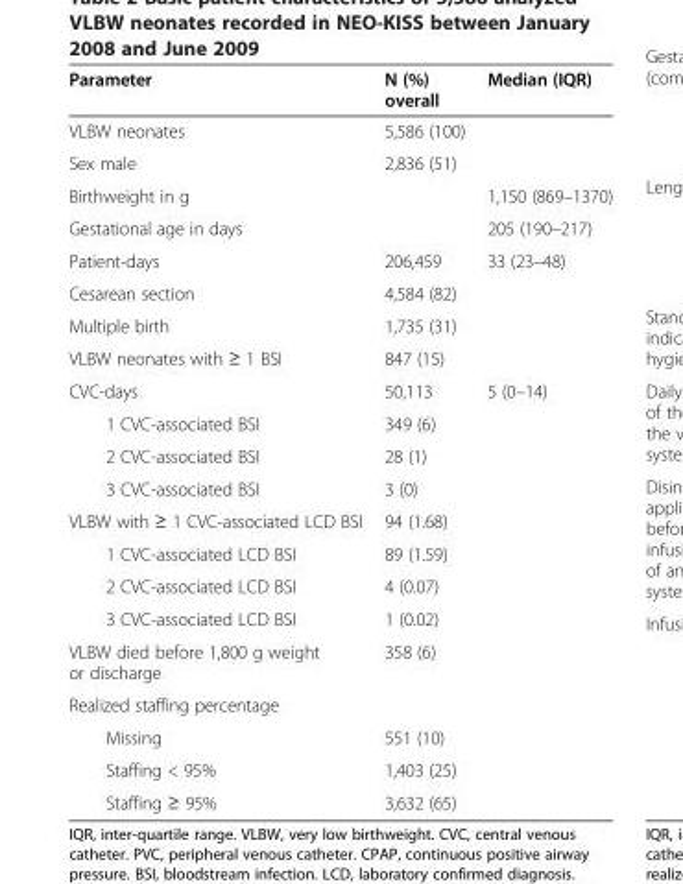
<table><thead><tr><td>Parameter</td><td>N (%) overall</td><td>Median (IQR)</td></tr></thead><tbody><tr><td>VLBW neonates</td><td>5,586 (100)</td><td></td></tr><tr><td>Sex male</td><td>2,836 (51)</td><td></td></tr><tr><td>Birthweight in g</td><td></td><td>1,150 (869–1370)</td></tr><tr><td>Gestational age in days</td><td></td><td>205 (190–217)</td></tr><tr><td>Patient-days</td><td>206,459</td><td>33 (23–48)</td></tr><tr><td>Cesarean section</td><td>4,584 (82)</td><td></td></tr><tr><td>Multiple birth</td><td>1,735 (31)</td><td></td></tr><tr><td>VLBW neonates with ≥ 1 BSI</td><td>847 (15)</td><td></td></tr><tr><td>CVC-days</td><td>50,113</td><td>5 (0–14)</td></tr><tr><td>1 CVC-associated BSI</td><td>349 (6)</td><td></td></tr><tr><td>2 CVC-associated BSI</td><td>28 (1)</td><td></td></tr><tr><td>3 CVC-associated BSI</td><td>3 (0)</td><td></td></tr><tr><td>VLBW with ≥ 1 CVC-associated LCD BSI</td><td>94 (1.68)</td><td></td></tr><tr><td>1 CVC-associated LCD BSI</td><td>89 (1.59)</td><td></td></tr><tr><td>2 CVC-associated LCD BSI</td><td>4 (0.07)</td><td></td></tr><tr><td>3 CVC-associated LCD BSI</td><td>1 (0.02)</td><td></td></tr><tr><td>VLBW died before 1,800 g weight or discharge</td><td>358 (6)</td><td></td></tr><tr><td colspan="3">Realized staffing percentage</td></tr><tr><td>Missing</td><td>551 (10)</td><td></td></tr><tr><td>Staffing &lt; 95%</td><td>1,403 (25)</td><td></td></tr><tr><td>Staffing ≥ 95%</td><td>3,632 (65)</td><td></td></tr></tbody></table>